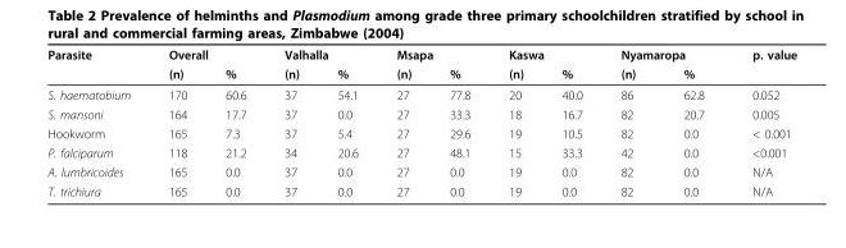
<table><thead><tr><td rowspan="2">Parasite</td><td colspan="2">Overall</td><td colspan="2">Valhalla</td><td colspan="2">Msapa</td><td colspan="2">Kaswa</td><td colspan="2">Nyamaropa</td><td rowspan="2">p. value</td></tr><tr><td>(n)</td><td>%</td><td>(n)</td><td>%</td><td>(n)</td><td>%</td><td>(n)</td><td>%</td><td>(n)</td><td>%</td></tr></thead><tbody><tr><td>S. haematobium</td><td>170</td><td>60.6</td><td>37</td><td>54.1</td><td>27</td><td>77.8</td><td>20</td><td>40.0</td><td>86</td><td>62.8</td><td>0.052</td></tr><tr><td>S. mansoni</td><td>164</td><td>17.7</td><td>37</td><td>0.0</td><td>27</td><td>33.3</td><td>18</td><td>16.7</td><td>82</td><td>20.7</td><td>0.005</td></tr><tr><td>Hookworm</td><td>165</td><td>7.3</td><td>37</td><td>5.4</td><td>27</td><td>29.6</td><td>19</td><td>10.5</td><td>82</td><td>0.0</td><td>&lt; 0.001</td></tr><tr><td>P. falciparum</td><td>118</td><td>21.2</td><td>34</td><td>20.6</td><td>27</td><td>48.1</td><td>15</td><td>33.3</td><td>42</td><td>0.0</td><td>&lt;0.001</td></tr><tr><td>A. lumbricoides</td><td>165</td><td>0.0</td><td>37</td><td>0.0</td><td>27</td><td>0.0</td><td>19</td><td>0.0</td><td>82</td><td>0.0</td><td>N/A</td></tr><tr><td>T. trichiura</td><td>165</td><td>0.0</td><td>37</td><td>0.0</td><td>27</td><td>0.0</td><td>19</td><td>0.0</td><td>82</td><td>0.0</td><td>N/A</td></tr></tbody></table>